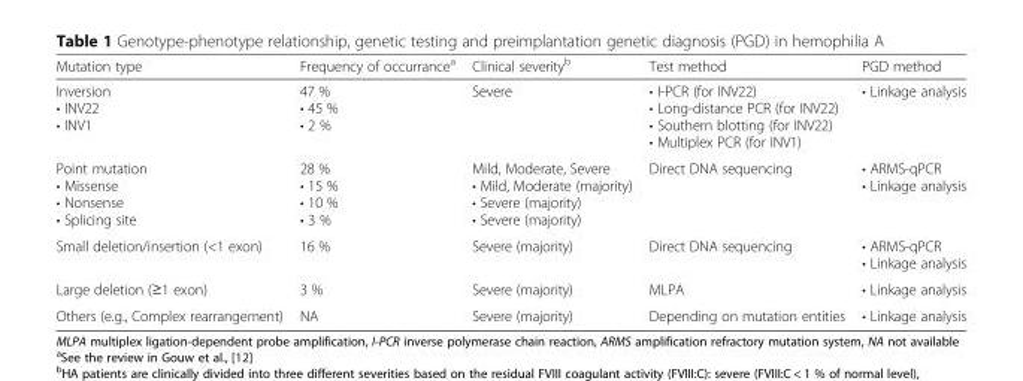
<table><thead><tr><td>Mutation type</td><td>Frequency of occurrance<sup>a</sup></td><td>Clinical severity<sup>b</sup></td><td>Test method</td><td>PGD method</td></tr></thead><tbody><tr><td>Inversion • INV22 • INV1</td><td>47 % • 45 % • 2 %</td><td>Severe</td><td>• I-PCR (for INV22) • Long-distance PCR (for INV22) • Southern blotting (for INV22) • Multiplex PCR (for INV1)</td><td>• Linkage analysis</td></tr><tr><td>Point mutation • Missense • Nonsense • Splicing site</td><td>28 % • 15 % • 10 % • 3 %</td><td>Mild, Moderate, Severe • Mild, Moderate (majority) • Severe (majority) • Severe (majority)</td><td>Direct DNA sequencing</td><td>• ARMS-qPCR • Linkage analysis</td></tr><tr><td>Small deletion/insertion (&lt;1 exon)</td><td>16 %</td><td>Severe (majority)</td><td>Direct DNA sequencing</td><td>• ARMS-qPCR • Linkage analysis</td></tr><tr><td>Large deletion (≥1 exon)</td><td>3 %</td><td>Severe (majority)</td><td>MLPA</td><td>• Linkage analysis</td></tr><tr><td>Others (e.g., Complex rearrangement)</td><td>NA</td><td>Severe (majority)</td><td>Depending on mutation entities</td><td>• Linkage analysis</td></tr></tbody></table>